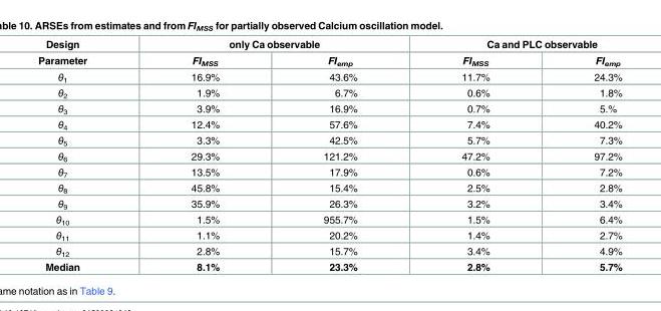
<table><thead><tr><td rowspan="2">Design Parameter</td><td colspan="2">only Ca observable</td><td colspan="2">Ca and PLC observable</td></tr><tr><td>FI<sub>MSS</sub></td><td>FI<sub>emp</sub></td><td>FI<sub>MSS</sub></td><td>FI<sub>emp</sub></td></tr></thead><tbody><tr><td>θ<sub>1</sub></td><td>16.9%</td><td>43.6%</td><td>11.7%</td><td>24.3%</td></tr><tr><td>θ<sub>2</sub></td><td>1.9%</td><td>6.7%</td><td>0.6%</td><td>1.8%</td></tr><tr><td>θ<sub>3</sub></td><td>3.9%</td><td>16.9%</td><td>0.7%</td><td>5.%</td></tr><tr><td>θ<sub>4</sub></td><td>12.4%</td><td>57.6%</td><td>7.4%</td><td>40.2%</td></tr><tr><td>θ<sub>5</sub></td><td>3.3%</td><td>42.5%</td><td>5.7%</td><td>7.3%</td></tr><tr><td>θ<sub>6</sub></td><td>29.3%</td><td>121.2%</td><td>47.2%</td><td>97.2%</td></tr><tr><td>θ<sub>7</sub></td><td>13.5%</td><td>17.9%</td><td>0.6%</td><td>7.2%</td></tr><tr><td>θ<sub>8</sub></td><td>45.8%</td><td>15.4%</td><td>2.5%</td><td>2.8%</td></tr><tr><td>θ<sub>9</sub></td><td>35.9%</td><td>26.3%</td><td>3.2%</td><td>3.4%</td></tr><tr><td>θ<sub>10</sub></td><td>1.5%</td><td>955.7%</td><td>1.5%</td><td>6.4%</td></tr><tr><td>θ<sub>11</sub></td><td>1.1%</td><td>20.2%</td><td>1.4%</td><td>2.7%</td></tr><tr><td>θ<sub>12</sub></td><td>2.8%</td><td>15.7%</td><td>3.4%</td><td>4.9%</td></tr><tr><td>Median</td><td>8.1%</td><td>23.3%</td><td>2.8%</td><td>5.7%</td></tr></tbody></table>